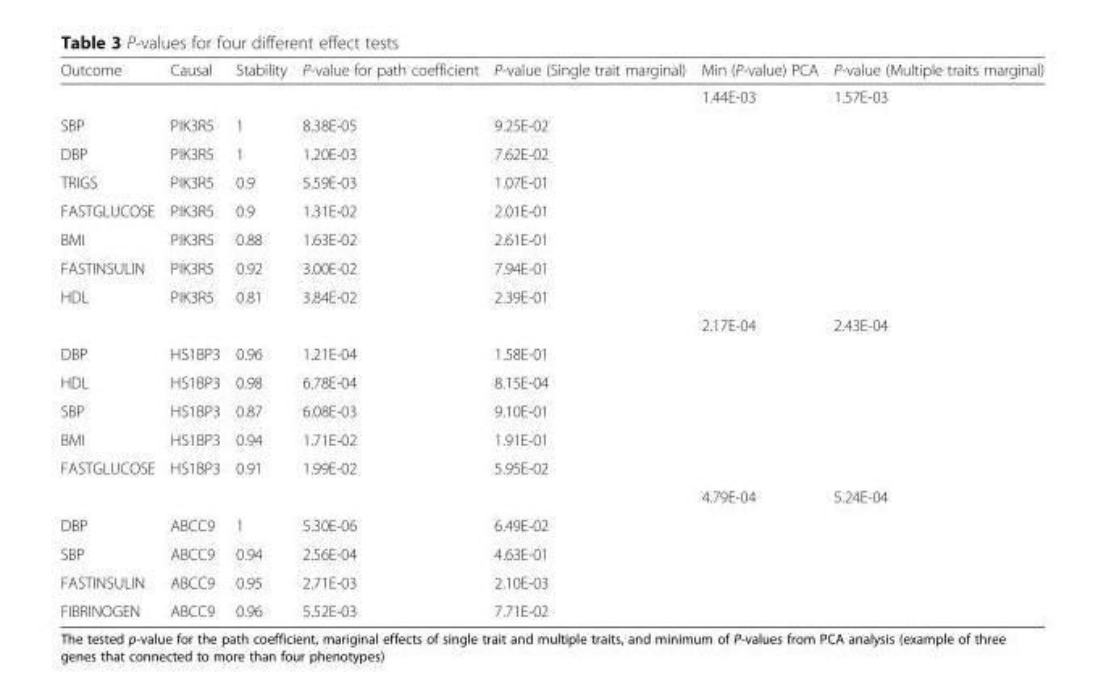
<table><thead><tr><td>Outcome</td><td>Causal</td><td>Stability</td><td>P-value for path coefficient</td><td>P-value (Single trait marginal)</td><td>Min (P-value) PCA</td><td>P-value (Multiple traits marginal)</td></tr></thead><tbody><tr><td></td><td></td><td></td><td></td><td></td><td>1.44E-03</td><td>1.57E-03</td></tr><tr><td>SBP</td><td>PIK3R5</td><td>1</td><td>8.38E-05</td><td>9.25E-02</td><td></td><td></td></tr><tr><td>DBP</td><td>PIK3R5</td><td>1</td><td>1.20E-03</td><td>7.62E-02</td><td></td><td></td></tr><tr><td>TRIGS</td><td>PIK3R5</td><td>0.9</td><td>5.59E-03</td><td>1.07E-01</td><td></td><td></td></tr><tr><td>FASTGLUCOSE</td><td>PIK3R5</td><td>0.9</td><td>1.31E-02</td><td>2.01E-01</td><td></td><td></td></tr><tr><td>BMI</td><td>PIK3R5</td><td>0.88</td><td>1.63E-02</td><td>2.61E-01</td><td></td><td></td></tr><tr><td>FASTINSULIN</td><td>PIK3R5</td><td>0.92</td><td>3.00E-02</td><td>7.94E-01</td><td></td><td></td></tr><tr><td rowspan="2">HDL</td><td>PIK3R5</td><td>0.81</td><td>3.84E-02</td><td>2.39E-01</td><td></td><td></td></tr><tr><td></td><td></td><td></td><td></td><td>2.17E-04</td><td>2.43E-04</td></tr><tr><td>DBP</td><td>HS1BP3</td><td>0.96</td><td>1.21E-04</td><td>1.58E-01</td><td></td><td></td></tr><tr><td>HDL</td><td>HS1BP3</td><td>0.98</td><td>6.78E-04</td><td>8.15E-04</td><td></td><td></td></tr><tr><td>SBP</td><td>HS1BP3</td><td>0.87</td><td>6.08E-03</td><td>9.10E-01</td><td></td><td></td></tr><tr><td>BMI</td><td>HS1BP3</td><td>0.94</td><td>1.71E-02</td><td>1.91E-01</td><td></td><td></td></tr><tr><td rowspan="2">FASTGLUCOSE</td><td>HS1BP3</td><td>0.91</td><td>1.99E-02</td><td>5.95E-02</td><td></td><td></td></tr><tr><td></td><td></td><td></td><td></td><td>4.79E-04</td><td>5.24E-04</td></tr><tr><td>DBP</td><td>ABCC9</td><td>1</td><td>5.30E-06</td><td>6.49E-02</td><td></td><td></td></tr><tr><td>SBP</td><td>ABCC9</td><td>0.94</td><td>2.56E-04</td><td>4.63E-01</td><td></td><td></td></tr><tr><td>FASTINSULIN</td><td>ABCC9</td><td>0.95</td><td>2.71E-03</td><td>2.10E-03</td><td></td><td></td></tr><tr><td>FIBRINOGEN</td><td>ABCC9</td><td>0.96</td><td>5.52E-03</td><td>7.71E-02</td><td></td><td></td></tr></tbody></table>